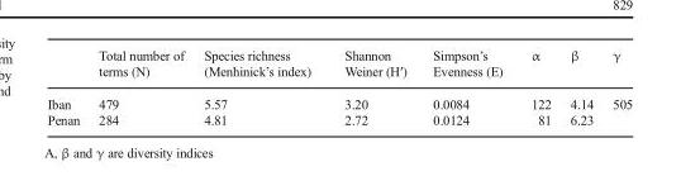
<table><thead><tr><td></td><td>Total number of terms (N)</td><td>Species richness (Menhinick’s index)</td><td>Shannon Weiner (H′)</td><td>Simpson’s Evenness (E)</td><td>α</td><td>β</td><td>γ</td></tr></thead><tbody><tr><td>Iban</td><td>479</td><td>5.57</td><td>3.20</td><td>0.0084</td><td>122</td><td>4.14</td><td rowspan="2">505</td></tr><tr><td>Penan</td><td>284</td><td>4.81</td><td>2.72</td><td>0.0124</td><td>81</td><td>6.23</td></tr></tbody></table>